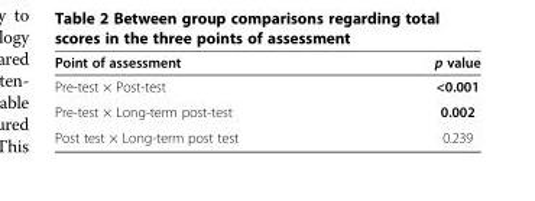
<table><thead><tr><td>Point of assessment</td><td>p value</td></tr></thead><tbody><tr><td>Pre-test × Post-test</td><td>&lt;0.001</td></tr><tr><td>Pre-test × Long-term post-test</td><td>0.002</td></tr><tr><td>Post test × Long-term post test</td><td>0.239</td></tr></tbody></table>